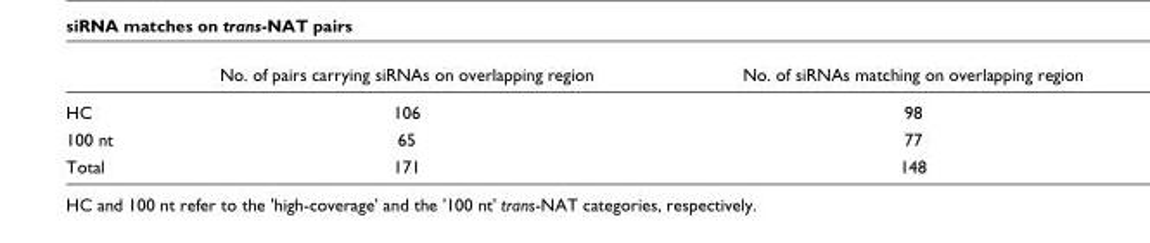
<table><thead><tr><td></td><td>No. of pairs carrying siRNAs on overlapping region</td><td>No. of siRNAs matching on overlapping region</td></tr></thead><tbody><tr><td>HC</td><td>106</td><td>98</td></tr><tr><td>100 nt</td><td>65</td><td>77</td></tr><tr><td>Total</td><td>171</td><td>148</td></tr></tbody></table>